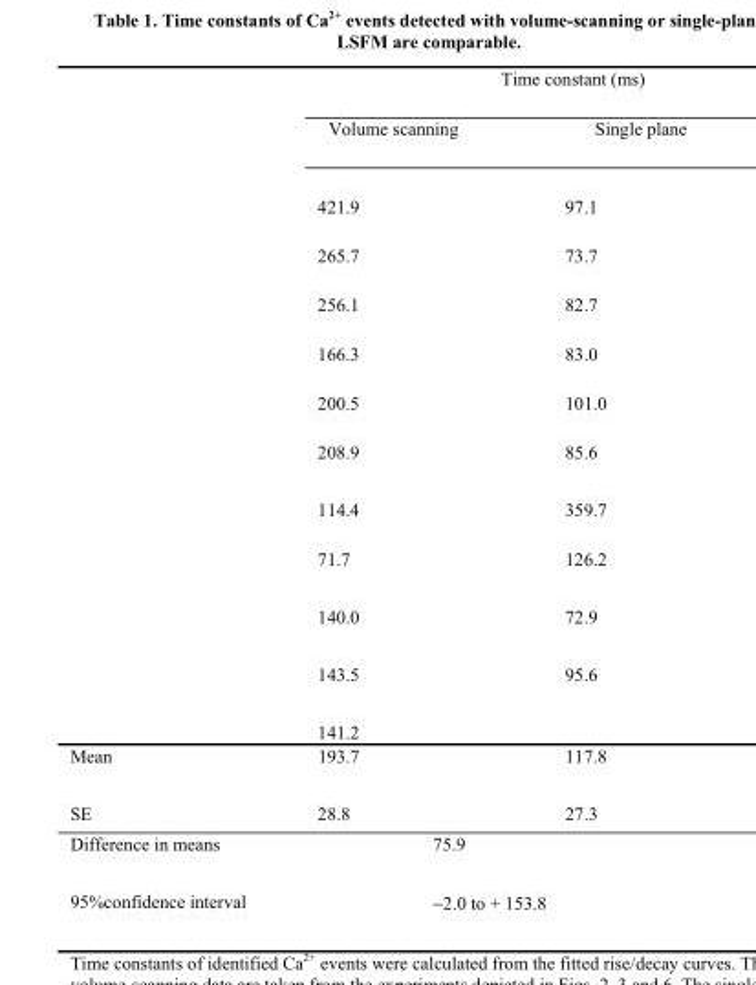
<table><thead><tr><td rowspan="3"></td><td colspan="3">Time constant (ms)</td></tr><tr><td colspan="2">Volume scanning</td><td rowspan="2">Single plane 97.1</td></tr><tr><td>421.9</td><td></td></tr></thead><tbody><tr><td></td><td>265.7</td><td></td><td>73.7</td></tr><tr><td></td><td>256.1</td><td></td><td>82.7</td></tr><tr><td></td><td>166.3</td><td></td><td>83.0</td></tr><tr><td></td><td>200.5</td><td></td><td>101.0</td></tr><tr><td></td><td>208.9</td><td></td><td>85.6</td></tr><tr><td></td><td>114.4</td><td></td><td>359.7</td></tr><tr><td></td><td>71.7</td><td></td><td>126.2</td></tr><tr><td></td><td>140.0</td><td></td><td>72.9</td></tr><tr><td></td><td>143.5</td><td></td><td>95.6</td></tr><tr><td></td><td>141.2</td><td></td><td></td></tr><tr><td>Mean</td><td>193.7</td><td></td><td>117.8</td></tr><tr><td>SE</td><td>28.8</td><td></td><td>27.3</td></tr><tr><td>Difference in means</td><td></td><td>75.9</td><td></td></tr><tr><td>95%confidence interval</td><td></td><td>−2.0 to + 153.8</td><td></td></tr></tbody></table>